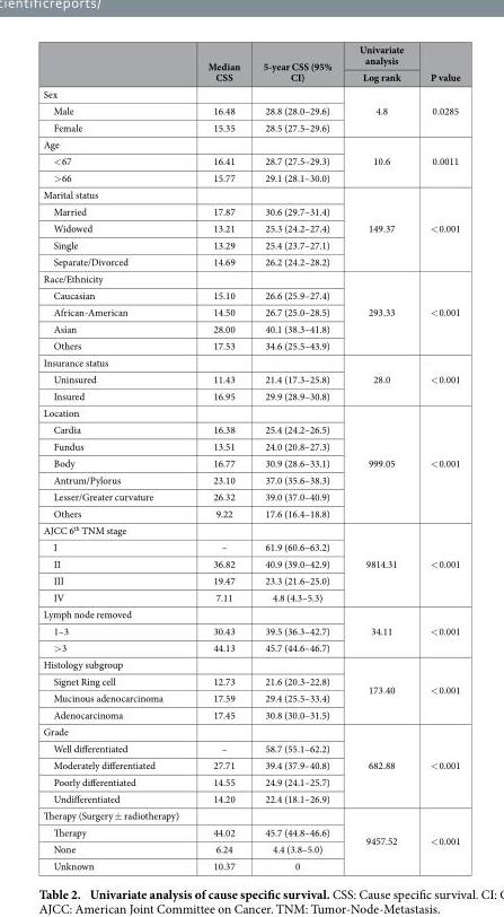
<table><thead><tr><td rowspan="2"></td><td rowspan="2">Median CSS</td><td rowspan="2">5-year CSS (95% CI)</td><td rowspan="2">Univariate analysis Log rank</td><td rowspan="2">P value</td></tr><tr></tr></thead><tbody><tr><td colspan="3">Sex</td><td rowspan="3">4.8</td><td rowspan="3">0.0285</td></tr><tr><td>Male</td><td>16.48</td><td>28.8 (28.0–29.6)</td></tr><tr><td>Female</td><td>15.35</td><td>28.5 (27.5–29.6)</td></tr><tr><td colspan="3">Age</td><td rowspan="3">10.6</td><td rowspan="3">0.0011</td></tr><tr><td>&lt; 67</td><td>16.41</td><td>28.7 (27.5–29.3)</td></tr><tr><td>&gt; 66</td><td>15.77</td><td>29.1 (28.1–30.0)</td></tr><tr><td colspan="3">Marital status</td><td rowspan="5">149.37</td><td rowspan="5">&lt; 0.001</td></tr><tr><td>Married</td><td>17.87</td><td>30.6 (29.7–31.4)</td></tr><tr><td>Widowed</td><td>13.21</td><td>25.3 (24.2–27.4)</td></tr><tr><td>Single</td><td>13.29</td><td>25.4 (23.7–27.1)</td></tr><tr><td>Separate/Divorced</td><td>14.69</td><td>26.2 (24.2–28.2)</td></tr><tr><td colspan="3">Race/Ethnicity</td><td rowspan="5">293.33</td><td rowspan="5">&lt; 0.001</td></tr><tr><td>Caucasian</td><td>15.10</td><td>26.6 (25.9–27.4)</td></tr><tr><td>African-American</td><td>14.50</td><td>26.7 (25.0–28.5)</td></tr><tr><td>Asian</td><td>28.00</td><td>40.1 (38.3–41.8)</td></tr><tr><td>Others</td><td>17.53</td><td>34.6 (25.5–43.9)</td></tr><tr><td colspan="3">Insurance status</td><td rowspan="3">28.0</td><td rowspan="3">&lt; 0.001</td></tr><tr><td>Uninsured</td><td>11.43</td><td>21.4 (17.3–25.8)</td></tr><tr><td>Insured</td><td>16.95</td><td>29.9 (28.9–30.8)</td></tr><tr><td colspan="3">Location</td><td rowspan="7">999.05</td><td rowspan="7">&lt; 0.001</td></tr><tr><td>Cardia</td><td>16.38</td><td>25.4 (24.2–26.5)</td></tr><tr><td>Fundus</td><td>13.51</td><td>24.0 (20.8–27.3)</td></tr><tr><td>Body</td><td>16.77</td><td>30.9 (28.6–33.1)</td></tr><tr><td>Antrum/Pylorus</td><td>23.10</td><td>37.0 (35.6–38.3)</td></tr><tr><td>Lesser/Greater curvature</td><td>26.32</td><td>39.0 (37.0–40.9)</td></tr><tr><td>Others</td><td>9.22</td><td>17.6 (16.4–18.8)</td></tr><tr><td colspan="3">AJCC 6<sup>th</sup> TNM stage</td><td rowspan="5">9814.31</td><td rowspan="5">&lt; 0.001</td></tr><tr><td>I</td><td>–</td><td>61.9 (60.6–63.2)</td></tr><tr><td>II</td><td>36.82</td><td>40.9 (39.0–42.9)</td></tr><tr><td>III</td><td>19.47</td><td>23.3 (21.6–25.0)</td></tr><tr><td>IV</td><td>7.11</td><td>4.8 (4.3–5.3)</td></tr><tr><td colspan="3">Lymph node removed</td><td rowspan="3">34.11</td><td rowspan="3">&lt; 0.001</td></tr><tr><td>1–3</td><td>30.43</td><td>39.5 (36.3–42.7)</td></tr><tr><td>&gt; 3</td><td>44.13</td><td>45.7 (44.6–46.7)</td></tr><tr><td colspan="3">Histology subgroup</td><td rowspan="4">173.40</td><td rowspan="4">&lt; 0.001</td></tr><tr><td>Signet Ring cell</td><td>12.73</td><td>21.6 (20.3–22.8)</td></tr><tr><td>Mucinous adenocarcinoma</td><td>17.59</td><td>29.4 (25.5–33.4)</td></tr><tr><td>Adenocarcinoma</td><td>17.45</td><td>30.8 (30.0–31.5)</td></tr><tr><td colspan="3">Grade</td><td rowspan="5">682.88</td><td rowspan="5">&lt; 0.001</td></tr><tr><td>Well differentiated</td><td>–</td><td>58.7 (55.1–62.2)</td></tr><tr><td>Moderately differentiated</td><td>27.71</td><td>39.4 (37.9–40.8)</td></tr><tr><td>Poorly differentiated</td><td>14.55</td><td>24.9 (24.1–25.7)</td></tr><tr><td>Undifferentiated</td><td>14.20</td><td>22.4 (18.1–26.9)</td></tr><tr><td colspan="3">Therapy (Surgery ± radiotherapy)</td><td rowspan="4">9457.52</td><td rowspan="4">&lt; 0.001</td></tr><tr><td>Therapy</td><td>44.02</td><td>45.7 (44.8–46.6)</td></tr><tr><td>None</td><td>6.24</td><td>4.4 (3.8–5.0)</td></tr><tr><td>Unknown</td><td>10.37</td><td>0</td></tr></tbody></table>